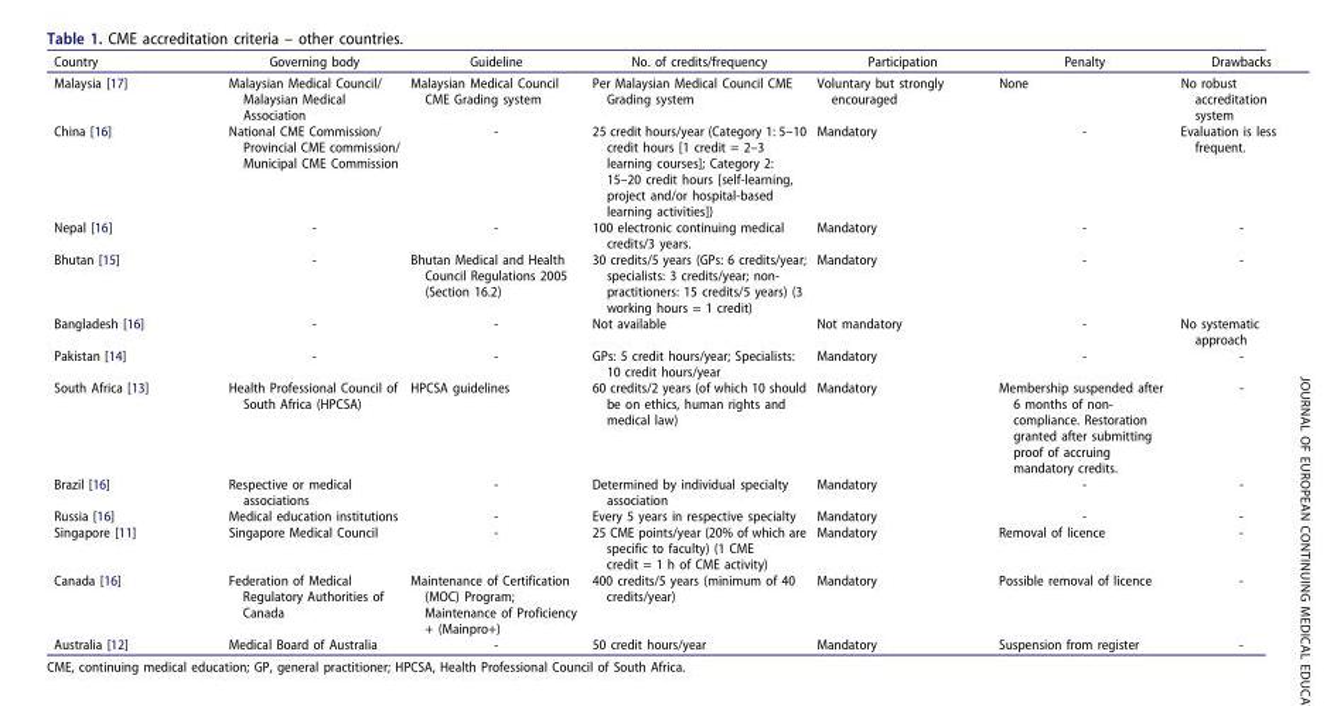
<table><thead><tr><td>Country</td><td>Governing body</td><td>Guideline</td><td>No. of credits/frequency</td><td>Participation</td><td>Penalty</td><td>Drawbacks</td></tr></thead><tbody><tr><td>Malaysia [17]</td><td>Malaysian Medical Council/ Malaysian Medical Association</td><td>Malaysian Medical Council CME Grading system</td><td>Per Malaysian Medical Council CME Grading system</td><td>Voluntary but strongly encouraged</td><td>None</td><td>No robust accreditation system</td></tr><tr><td>China [16]</td><td>National CME Commission/ Provincial CME commission/ Municipal CME Commission</td><td>-</td><td>25 credit hours/year (Category 1: 5–10 credit hours [1 credit = 2–3 learning courses]; Category 2: 15–20 credit hours [self-learning, project and/or hospital-based learning activities])</td><td>Mandatory</td><td>-</td><td>Evaluation is less frequent.</td></tr><tr><td>Nepal [16]</td><td>-</td><td>-</td><td>100 electronic continuing medical credits/3 years.</td><td>Mandatory</td><td>-</td><td>-</td></tr><tr><td>Bhutan [15]</td><td>-</td><td>Bhutan Medical and Health Council Regulations 2005 (Section 16.2)</td><td>30 credits/5 years (GPs: 6 credits/year; specialists: 3 credits/year; non- practitioners: 15 credits/5 years) (3 working hours = 1 credit)</td><td>Mandatory</td><td>-</td><td>-</td></tr><tr><td>Bangladesh [16]</td><td>-</td><td>-</td><td>Not available</td><td>Not mandatory</td><td>-</td><td>No systematic approach</td></tr><tr><td>Pakistan [14]</td><td>-</td><td>-</td><td>GPs: 5 credit hours/year; Specialists: 10 credit hours/year</td><td>Mandatory</td><td>-</td><td>-</td></tr><tr><td>South Africa [13]</td><td>Health Professional Council of South Africa (HPCSA)</td><td>HPCSA guidelines</td><td>60 credits/2 years (of which 10 should be on ethics, human rights and medical law)</td><td>Mandatory</td><td>Membership suspended after 6 months of non- compliance. Restoration granted after submitting proof of accruing mandatory credits.</td><td>-</td></tr><tr><td>Brazil [16]</td><td>Respective or medical associations</td><td>-</td><td>Determined by individual specialty association</td><td>Mandatory</td><td>-</td><td>-</td></tr><tr><td>Russia [16]</td><td>Medical education institutions</td><td>-</td><td>Every 5 years in respective specialty</td><td>Mandatory</td><td>-</td><td>-</td></tr><tr><td>Singapore [11]</td><td>Singapore Medical Council</td><td>-</td><td>25 CME points/year (20% of which are specific to faculty) (1 CME credit = 1 h of CME activity)</td><td>Mandatory</td><td>Removal of licence</td><td>-</td></tr><tr><td>Canada [16]</td><td>Federation of Medical Regulatory Authorities of Canada</td><td>Maintenance of Certification (MOC) Program; Maintenance of Proficiency + (Mainpro+)</td><td>400 credits/5 years (minimum of 40 credits/year)</td><td>Mandatory</td><td>Possible removal of licence</td><td>-</td></tr><tr><td>Australia [12]</td><td>Medical Board of Australia</td><td>-</td><td>50 credit hours/year</td><td>Mandatory</td><td>Suspension from register</td><td>-</td></tr></tbody></table>